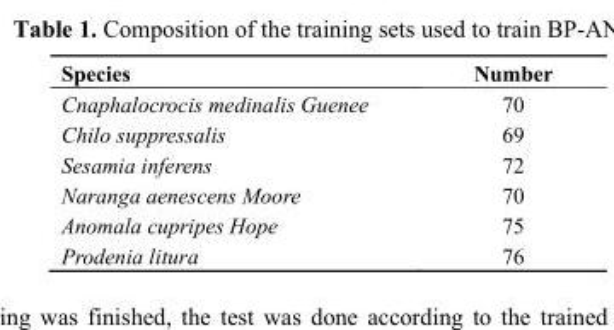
<table><thead><tr><td>Species</td><td>Number</td></tr></thead><tbody><tr><td>Cnaphalocrocis medinalis Guenee</td><td>70</td></tr><tr><td>Chilo suppressalis</td><td>69</td></tr><tr><td>Sesamia inferens</td><td>72</td></tr><tr><td>Naranga aenescens Moore</td><td>70</td></tr><tr><td>Anomala cupripes Hope</td><td>75</td></tr><tr><td>Prodenia litura</td><td>76</td></tr></tbody></table>